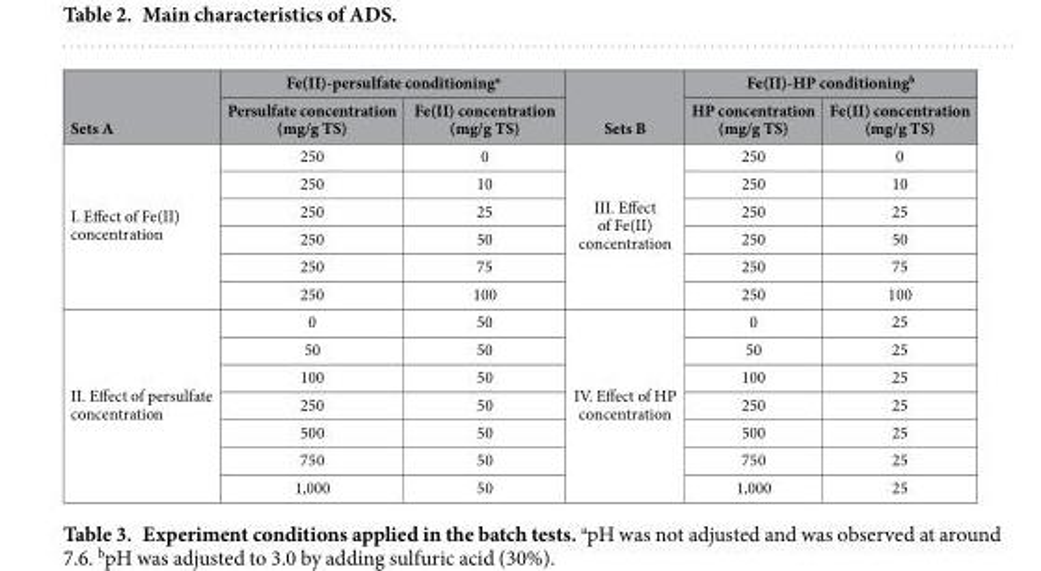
<table><thead><tr><td rowspan="2">Sets A</td><td colspan="2">Fe(II)-persulfate conditioning<sup>a</sup></td><td rowspan="2">Sets B</td><td colspan="2">Fe(II)-HP conditioning<sup>b</sup></td></tr><tr><td>Persulfate concentration (mg/g TS)</td><td>Fe(II) concentration (mg/g TS)</td><td>HP concentration (mg/g TS)</td><td>Fe(II) concentration (mg/g TS)</td></tr></thead><tbody><tr><td rowspan="6">I. Effect of Fe(II) concentration</td><td>250</td><td>0</td><td rowspan="6">III. Effect of Fe(II) concentration</td><td>250</td><td>0</td></tr><tr><td>250</td><td>10</td><td>250</td><td>10</td></tr><tr><td>250</td><td>25</td><td>250</td><td>25</td></tr><tr><td>250</td><td>50</td><td>250</td><td>50</td></tr><tr><td>250</td><td>75</td><td>250</td><td>75</td></tr><tr><td>250</td><td>100</td><td>250</td><td>100</td></tr><tr><td rowspan="7">II. Effect of persulfate concentration</td><td>0</td><td>50</td><td rowspan="7">IV. Effect of HP concentration</td><td>0</td><td>25</td></tr><tr><td>50</td><td>50</td><td>50</td><td>25</td></tr><tr><td>100</td><td>50</td><td>100</td><td>25</td></tr><tr><td>250</td><td>50</td><td>250</td><td>25</td></tr><tr><td>500</td><td>50</td><td>500</td><td>25</td></tr><tr><td>750</td><td>50</td><td>750</td><td>25</td></tr><tr><td>1,000</td><td>50</td><td>1,000</td><td>25</td></tr></tbody></table>